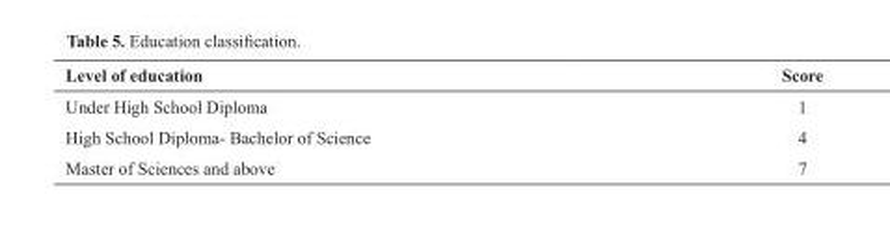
<table><thead><tr><td>Level of education</td><td>Score</td></tr></thead><tbody><tr><td>Under High School Diploma</td><td>1</td></tr><tr><td>High School Diploma- Bachelor of Science</td><td>4</td></tr><tr><td>Master of Sciences and above</td><td>7</td></tr></tbody></table>